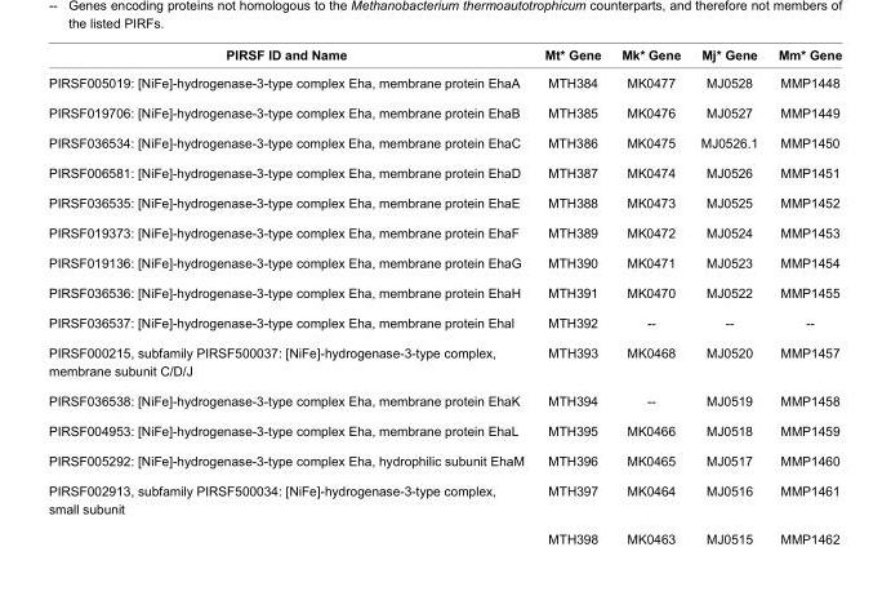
<table><thead><tr><td>PIRSF ID and Name</td><td>Mt* Gene</td><td>Mk* Gene</td><td>Mj* Gene</td><td>Mm* Gene</td></tr></thead><tbody><tr><td>PIRSF005019: [NiFe]-hydrogenase-3-type complex Eha, membrane protein EhaA</td><td>MTH384</td><td>MK0477</td><td>MJ0528</td><td>MMP1448</td></tr><tr><td>PIRSF019706: [NiFe]-hydrogenase-3-type complex Eha, membrane protein EhaB</td><td>MTH385</td><td>MK0476</td><td>MJ0527</td><td>MMP1449</td></tr><tr><td>PIRSF036534: [NiFe]-hydrogenase-3-type complex Eha, membrane protein EhaC</td><td>MTH386</td><td>MK0475</td><td>MJ0526.1</td><td>MMP1450</td></tr><tr><td>PIRSF006581: [NiFe]-hydrogenase-3-type complex Eha, membrane protein EhaD</td><td>MTH387</td><td>MK0474</td><td>MJ0526</td><td>MMP1451</td></tr><tr><td>PIRSF036535: [NiFe]-hydrogenase-3-type complex Eha, membrane protein EhaE</td><td>MTH388</td><td>MK0473</td><td>MJ0525</td><td>MMP1452</td></tr><tr><td>PIRSF019373: [NiFe]-hydrogenase-3-type complex Eha, membrane protein EhaF</td><td>MTH389</td><td>MK0472</td><td>MJ0524</td><td>MMP1453</td></tr><tr><td>PIRSF019136: [NiFe]-hydrogenase-3-type complex Eha, membrane protein EhaG</td><td>MTH390</td><td>MK0471</td><td>MJ0523</td><td>MMP1454</td></tr><tr><td>PIRSF036536: [NiFe]-hydrogenase-3-type complex Eha, membrane protein EhaH</td><td>MTH391</td><td>MK0470</td><td>MJ0522</td><td>MMP1455</td></tr><tr><td>PIRSF036537: [NiFe]-hydrogenase-3-type complex Eha, membrane protein Ehal</td><td>MTH392</td><td>--</td><td>--</td><td>--</td></tr><tr><td>PIRSF000215, subfamily PIRSF500037: [NiFe]-hydrogenase-3-type complex, membrane subunit C/D/J</td><td>MTH393</td><td>MK0468</td><td>MJ0520</td><td>MMP1457</td></tr><tr><td>PIRSF036538: [NiFe]-hydrogenase-3-type complex Eha, membrane protein EhaK</td><td>MTH394</td><td>--</td><td>MJ0519</td><td>MMP1458</td></tr><tr><td>PIRSF004953: [NiFe]-hydrogenase-3-type complex Eha, membrane protein EhaL</td><td>MTH395</td><td>MK0466</td><td>MJ0518</td><td>MMP1459</td></tr><tr><td>PIRSF005292: [NiFe]-hydrogenase-3-type complex Eha, hydrophilic subunit EhaM</td><td>MTH396</td><td>MK0465</td><td>MJ0517</td><td>MMP1460</td></tr><tr><td rowspan="2">PIRSF002913, subfamily PIRSF500034: [NiFe]-hydrogenase-3-type complex, small subunit</td><td>MTH397</td><td>MK0464</td><td>MJ0516</td><td>MMP1461</td></tr><tr><td>MTH398</td><td>MK0463</td><td>MJ0515</td><td>MMP1462</td></tr></tbody></table>